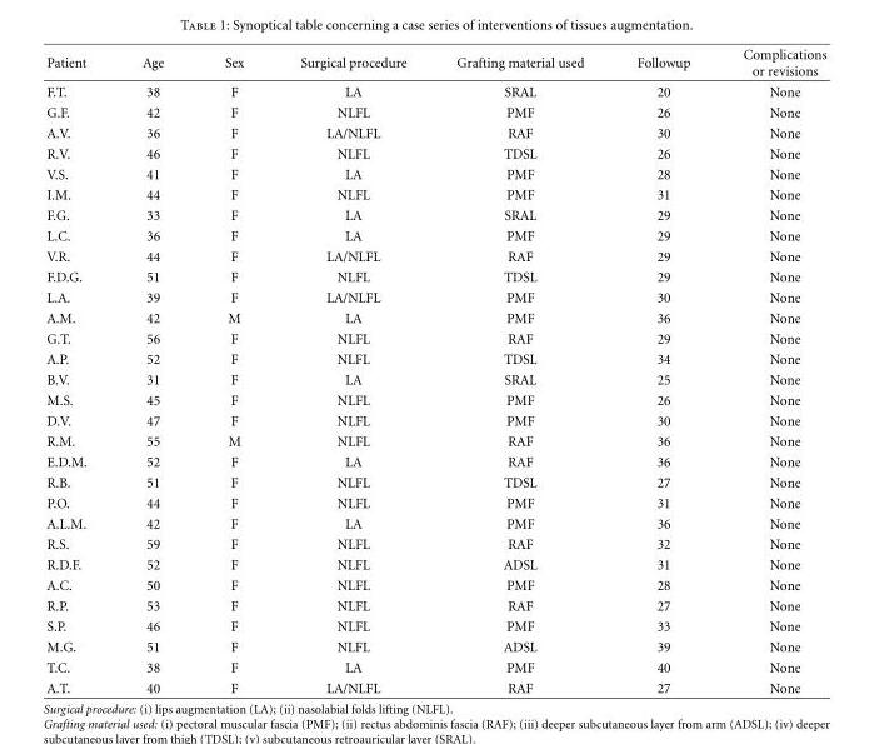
<table><thead><tr><td>Patient</td><td>Age</td><td>Sex</td><td>Surgical procedure</td><td>Grafting material used</td><td>Followup</td><td>Complications or revisions</td></tr></thead><tbody><tr><td>F.T.</td><td>38</td><td>F</td><td>LA</td><td>SRAL</td><td>20</td><td>None</td></tr><tr><td>G.F.</td><td>42</td><td>F</td><td>NLFL</td><td>PMF</td><td>26</td><td>None</td></tr><tr><td>A.V.</td><td>36</td><td>F</td><td>LA/NLFL</td><td>RAF</td><td>30</td><td>None</td></tr><tr><td>R.V.</td><td>46</td><td>F</td><td>NLFL</td><td>TDSL</td><td>26</td><td>None</td></tr><tr><td>V.S.</td><td>41</td><td>F</td><td>LA</td><td>PMF</td><td>28</td><td>None</td></tr><tr><td>I.M.</td><td>44</td><td>F</td><td>NLFL</td><td>PMF</td><td>31</td><td>None</td></tr><tr><td>F.G.</td><td>33</td><td>F</td><td>LA</td><td>SRAL</td><td>29</td><td>None</td></tr><tr><td>L.C.</td><td>36</td><td>F</td><td>LA</td><td>PMF</td><td>29</td><td>None</td></tr><tr><td>V.R.</td><td>44</td><td>F</td><td>LA/NLFL</td><td>RAF</td><td>29</td><td>None</td></tr><tr><td>F.D.G.</td><td>51</td><td>F</td><td>NLFL</td><td>TDSL</td><td>29</td><td>None</td></tr><tr><td>L.A.</td><td>39</td><td>F</td><td>LA/NLFL</td><td>PMF</td><td>30</td><td>None</td></tr><tr><td>A.M.</td><td>42</td><td>M</td><td>LA</td><td>PMF</td><td>36</td><td>None</td></tr><tr><td>G.T.</td><td>56</td><td>F</td><td>NLFL</td><td>RAF</td><td>29</td><td>None</td></tr><tr><td>A.P.</td><td>52</td><td>F</td><td>NLFL</td><td>TDSL</td><td>34</td><td>None</td></tr><tr><td>B.V.</td><td>31</td><td>F</td><td>LA</td><td>SRAL</td><td>25</td><td>None</td></tr><tr><td>M.S.</td><td>45</td><td>F</td><td>NLFL</td><td>PMF</td><td>26</td><td>None</td></tr><tr><td>D.V.</td><td>47</td><td>F</td><td>NLFL</td><td>PMF</td><td>30</td><td>None</td></tr><tr><td>R.M.</td><td>55</td><td>M</td><td>NLFL</td><td>RAF</td><td>36</td><td>None</td></tr><tr><td>E.D.M.</td><td>52</td><td>F</td><td>LA</td><td>RAF</td><td>36</td><td>None</td></tr><tr><td>R.B.</td><td>51</td><td>F</td><td>NLFL</td><td>TDSL</td><td>27</td><td>None</td></tr><tr><td>P.O.</td><td>44</td><td>F</td><td>NLFL</td><td>PMF</td><td>31</td><td>None</td></tr><tr><td>A.L.M.</td><td>42</td><td>F</td><td>LA</td><td>PMF</td><td>36</td><td>None</td></tr><tr><td>R.S.</td><td>59</td><td>F</td><td>NLFL</td><td>RAF</td><td>32</td><td>None</td></tr><tr><td>R.D.F.</td><td>52</td><td>F</td><td>NLFL</td><td>ADSL</td><td>31</td><td>None</td></tr><tr><td>A.C.</td><td>50</td><td>F</td><td>NLFL</td><td>PMF</td><td>28</td><td>None</td></tr><tr><td>R.P.</td><td>53</td><td>F</td><td>NLFL</td><td>RAF</td><td>27</td><td>None</td></tr><tr><td>S.P.</td><td>46</td><td>F</td><td>NLFL</td><td>PMF</td><td>33</td><td>None</td></tr><tr><td>M.G.</td><td>51</td><td>F</td><td>NLFL</td><td>ADSL</td><td>39</td><td>None</td></tr><tr><td>T.C.</td><td>38</td><td>F</td><td>LA</td><td>PMF</td><td>40</td><td>None</td></tr><tr><td>A.T.</td><td>40</td><td>F</td><td>LA/NLFL</td><td>RAF</td><td>27</td><td>None</td></tr></tbody></table>